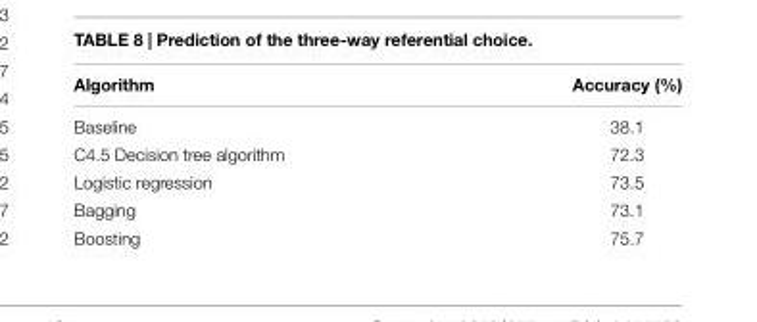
<table><thead><tr><td>Algorithm</td><td>Accuracy (%)</td></tr></thead><tbody><tr><td>Baseline</td><td>38.1</td></tr><tr><td>C4.5 Decision tree algorithm</td><td>72.3</td></tr><tr><td>Logistic regression</td><td>73.5</td></tr><tr><td>Bagging</td><td>73.1</td></tr><tr><td>Boosting</td><td>75.7</td></tr></tbody></table>